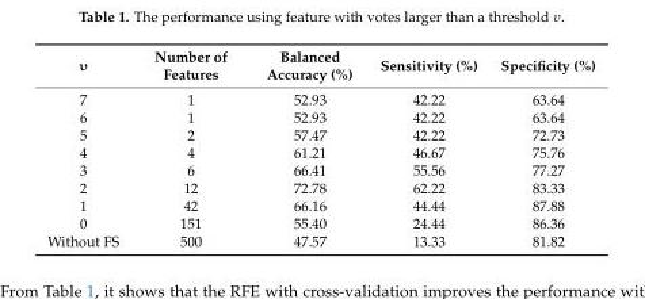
<table><thead><tr><td>υ</td><td>Number of Features</td><td>Balanced Accuracy (%)</td><td>Sensitivity (%)</td><td>Specificity (%)</td></tr></thead><tbody><tr><td>7</td><td>1</td><td>52.93</td><td>42.22</td><td>63.64</td></tr><tr><td>6</td><td>1</td><td>52.93</td><td>42.22</td><td>63.64</td></tr><tr><td>5</td><td>2</td><td>57.47</td><td>42.22</td><td>72.73</td></tr><tr><td>4</td><td>4</td><td>61.21</td><td>46.67</td><td>75.76</td></tr><tr><td>3</td><td>6</td><td>66.41</td><td>55.56</td><td>77.27</td></tr><tr><td>2</td><td>12</td><td>72.78</td><td>62.22</td><td>83.33</td></tr><tr><td>1</td><td>42</td><td>66.16</td><td>44.44</td><td>87.88</td></tr><tr><td>0</td><td>151</td><td>55.40</td><td>24.44</td><td>86.36</td></tr><tr><td>Without FS</td><td>500</td><td>47.57</td><td>13.33</td><td>81.82</td></tr></tbody></table>